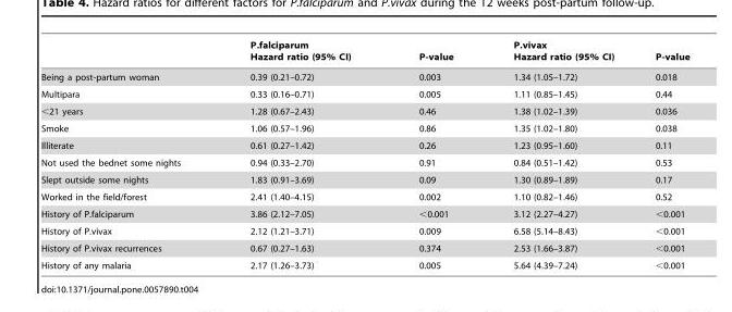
<table><thead><tr><td></td><td>P.falciparum Hazard ratio (95% CI)</td><td>P-value</td><td>P.vivax Hazard ratio (95% CI)</td><td>P-value</td></tr></thead><tbody><tr><td>Being a post-partum woman</td><td>0.39 (0.21–0.72)</td><td>0.003</td><td>1.34 (1.05–1.72)</td><td>0.018</td></tr><tr><td>Multipara</td><td>0.33 (0.16–0.71)</td><td>0.005</td><td>1.11 (0.85–1.45)</td><td>0.44</td></tr><tr><td>&lt;21 years</td><td>1.28 (0.67–2.43)</td><td>0.46</td><td>1.38 (1.02–1.39)</td><td>0.036</td></tr><tr><td>Smoke</td><td>1.06 (0.57–1.96)</td><td>0.86</td><td>1.35 (1.02–1.80)</td><td>0.038</td></tr><tr><td>Illiterate</td><td>0.61 (0.27–1.42)</td><td>0.26</td><td>1.23 (0.95–1.60)</td><td>0.11</td></tr><tr><td>Not used the bednet some nights</td><td>0.94 (0.33–2.70)</td><td>0.91</td><td>0.84 (0.51–1.42)</td><td>0.53</td></tr><tr><td>Slept outside some nights</td><td>1.83 (0.91–3.69)</td><td>0.09</td><td>1.30 (0.89–1.89)</td><td>0.17</td></tr><tr><td>Worked in the field/forest</td><td>2.41 (1.40–4.15)</td><td>0.002</td><td>1.10 (0.82–1.46)</td><td>0.52</td></tr><tr><td>History of P.falciparum</td><td>3.86 (2.12–7.05)</td><td>&lt;0.001</td><td>3.12 (2.27–4.27)</td><td>&lt;0.001</td></tr><tr><td>History of P.vivax</td><td>2.12 (1.21–3.71)</td><td>0.009</td><td>6.58 (5.14–8.43)</td><td>&lt;0.001</td></tr><tr><td>History of P.vivax recurrences</td><td>0.67 (0.27–1.63)</td><td>0.374</td><td>2.53 (1.66–3.87)</td><td>&lt;0.001</td></tr><tr><td>History of any malaria</td><td>2.17 (1.26–3.73)</td><td>0.005</td><td>5.64 (4.39–7.24)</td><td>&lt;0.001</td></tr></tbody></table>